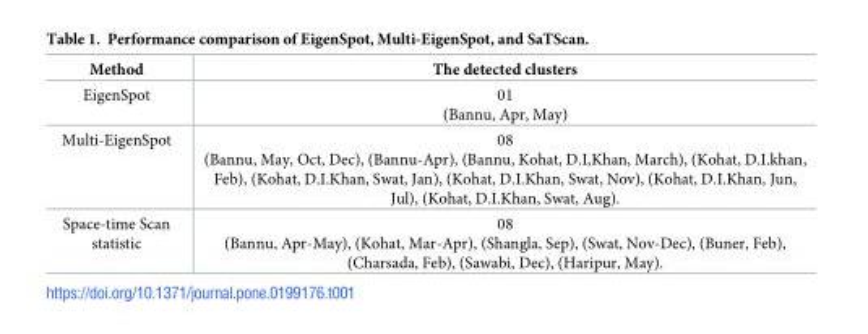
<table><thead><tr><td>Method</td><td>The detected clusters</td></tr></thead><tbody><tr><td>EigenSpot</td><td>01 (Bannu, Apr, May)</td></tr><tr><td>Multi-EigenSpot</td><td>08 (Bannu, May, Oct, Dec), (Bannu-Apr), (Bannu, Kohat, D.I,Khan, March), (Kohat, D.I.khan, Feb), (Kohat, D.I.Khan, Swat, Jan), (Kohat, D.I.Khan, Swat, Nov), (Kohat, D.I.Khan, Jun, Jul), (Kohat, D.I.Khan, Swat, Aug).</td></tr><tr><td>Space-time Scan statistic</td><td>08 (Bannu, Apr-May), (Kohat, Mar-Apr), (Shangla, Sep), (Swat, Nov-Dec), (Buner, Feb), (Charsada, Feb), (Sawabi, Dec), (Haripur, May).</td></tr></tbody></table>